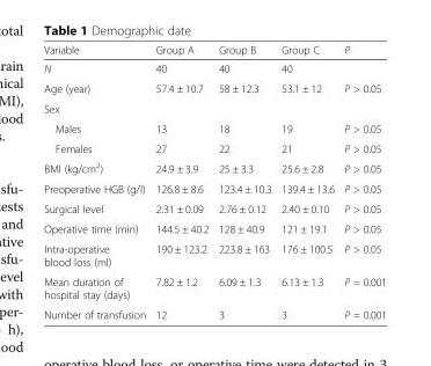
<table><thead><tr><td>Variable</td><td>Group A</td><td>Group B</td><td>Group C</td><td>P</td></tr></thead><tbody><tr><td>N</td><td>40</td><td>40</td><td>40</td><td></td></tr><tr><td>Age (year)</td><td>57.4 ± 10.7</td><td>58 ± 12.3</td><td>53.1 ± 12</td><td>P &gt; 0.05</td></tr><tr><td colspan="5">Sex</td></tr><tr><td>Males</td><td>13</td><td>18</td><td>19</td><td>P &gt; 0.05</td></tr><tr><td>Females</td><td>27</td><td>22</td><td>21</td><td>P &gt; 0.05</td></tr><tr><td>BMI (kg/cm<sup>2</sup>)</td><td>24.9 ± 3.9</td><td>25 ± 3.3</td><td>25.6 ± 2.8</td><td>P &gt; 0.05</td></tr><tr><td>Preoperative HGB (g/l)</td><td>126.8 ± 8.6</td><td>123.4 ± 10.3</td><td>139.4 ± 13.6</td><td>P &gt; 0.05</td></tr><tr><td>Surgical level</td><td>2.31 ± 0.09</td><td>2.76 ± 0.12</td><td>2.40 ± 0.10</td><td>P &gt; 0.05</td></tr><tr><td>Operative time (min)</td><td>144.5 ± 40.2</td><td>128 ± 40.9</td><td>121 ± 19.1</td><td>P &gt; 0.05</td></tr><tr><td>Intra-operative blood loss (ml)</td><td>190 ± 123.2</td><td>223.8 ± 163</td><td>176 ± 100.5</td><td>P &gt; 0.05</td></tr><tr><td>Mean duration of hospital stay (days)</td><td>7.82 ± 1.2</td><td>6.09 ± 1.3</td><td>6.13 ± 1.3</td><td>P = 0.001</td></tr><tr><td>Number of transfusion</td><td>12</td><td>3</td><td>3</td><td>P = 0.001</td></tr></tbody></table>